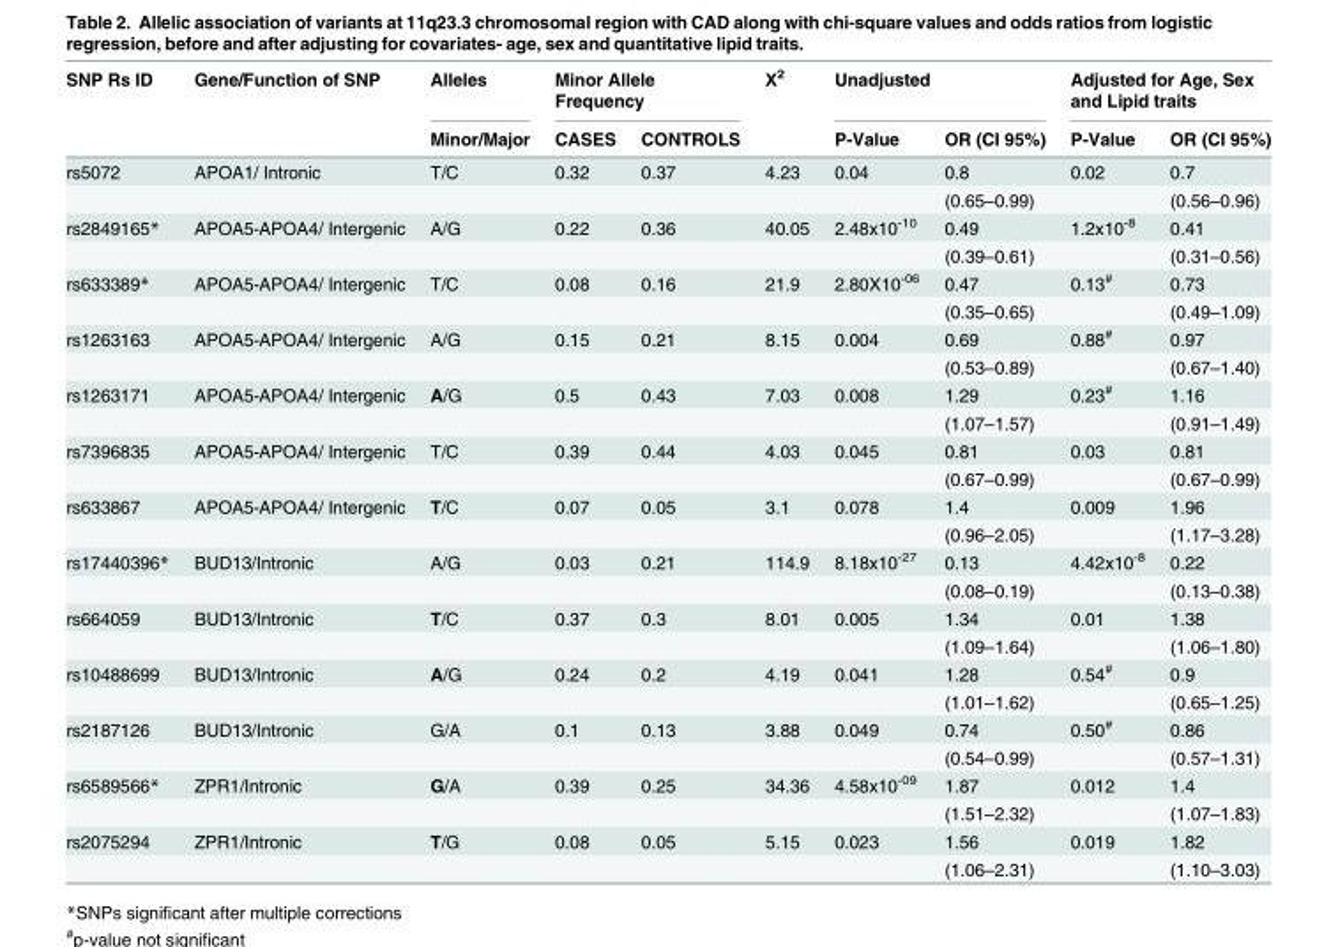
<table><thead><tr><td rowspan="2">SNP Rs ID</td><td rowspan="2">Gene/Function of SNP</td><td rowspan="2">Alleles Minor/Major</td><td colspan="2">Minor Allele Frequency</td><td rowspan="2">Χ<sup>2</sup></td><td colspan="2">Unadjusted</td><td colspan="2">Adjusted for Age, Sex and Lipid traits</td></tr><tr><td>CASES</td><td>CONTROLS</td><td>P-Value</td><td>OR (CI 95%)</td><td>P-Value</td><td>OR (CI 95%)</td></tr></thead><tbody><tr><td rowspan="2">rs5072</td><td>APOA1/ Intronic</td><td>T/C</td><td>0.32</td><td>0.37</td><td>4.23</td><td>0.04</td><td>0.8</td><td>0.02</td><td>0.7</td></tr><tr><td></td><td></td><td></td><td></td><td></td><td></td><td>(0.65–0.99)</td><td></td><td>(0.56–0.96)</td></tr><tr><td rowspan="2">rs2849165*</td><td>APOA5-APOA4/ Intergenic</td><td>A/G</td><td>0.22</td><td>0.36</td><td>40.05</td><td>2.48x10<sup>-10</sup></td><td>0.49</td><td>1.2x10<sup>-8</sup></td><td>0.41</td></tr><tr><td></td><td></td><td></td><td></td><td></td><td></td><td>(0.39–0.61)</td><td></td><td>(0.31–0.56)</td></tr><tr><td rowspan="2">rs633389*</td><td>APOA5-APOA4/ Intergenic</td><td>T/C</td><td>0.08</td><td>0.16</td><td>21.9</td><td>2.80X10<sup>-06</sup></td><td>0.47</td><td>0.13<sup>#</sup></td><td>0.73</td></tr><tr><td></td><td></td><td></td><td></td><td></td><td></td><td>(0.35–0.65)</td><td></td><td>(0.49–1.09)</td></tr><tr><td rowspan="2">rs1263163</td><td>APOA5-APOA4/ Intergenic</td><td>A/G</td><td>0.15</td><td>0.21</td><td>8.15</td><td>0.004</td><td>0.69</td><td>0.88<sup>#</sup></td><td>0.97</td></tr><tr><td></td><td></td><td></td><td></td><td></td><td></td><td>(0.53–0.89)</td><td></td><td>(0.67–1.40)</td></tr><tr><td rowspan="2">rs1263171</td><td>APOA5-APOA4/ Intergenic</td><td>A/G</td><td>0.5</td><td>0.43</td><td>7.03</td><td>0.008</td><td>1.29</td><td>0.23<sup>#</sup></td><td>1.16</td></tr><tr><td></td><td></td><td></td><td></td><td></td><td></td><td>(1.07–1.57)</td><td></td><td>(0.91–1.49)</td></tr><tr><td rowspan="2">rs7396835</td><td>APOA5-APOA4/ Intergenic</td><td>T/C</td><td>0.39</td><td>0.44</td><td>4.03</td><td>0.045</td><td>0.81</td><td>0.03</td><td>0.81</td></tr><tr><td></td><td></td><td></td><td></td><td></td><td></td><td>(0.67–0.99)</td><td></td><td>(0.67–0.99)</td></tr><tr><td rowspan="2">rs633867</td><td>APOA5-APOA4/ Intergenic</td><td>T/C</td><td>0.07</td><td>0.05</td><td>3.1</td><td>0.078</td><td>1.4</td><td>0.009</td><td>1.96</td></tr><tr><td></td><td></td><td></td><td></td><td></td><td></td><td>(0.96–2.05)</td><td></td><td>(1.17–3.28)</td></tr><tr><td rowspan="2">rs17440396*</td><td>BUD13/Intronic</td><td>A/G</td><td>0.03</td><td>0.21</td><td>114.9</td><td>8.18x10<sup>-27</sup></td><td>0.13</td><td>4.42x10<sup>-8</sup></td><td>0.22</td></tr><tr><td></td><td></td><td></td><td></td><td></td><td></td><td>(0.08–0.19)</td><td></td><td>(0.13–0.38)</td></tr><tr><td rowspan="2">rs664059</td><td>BUD13/Intronic</td><td>T/C</td><td>0.37</td><td>0.3</td><td>8.01</td><td>0.005</td><td>1.34</td><td>0.01</td><td>1.38</td></tr><tr><td></td><td></td><td></td><td></td><td></td><td></td><td>(1.09–1.64)</td><td></td><td>(1.06–1.80)</td></tr><tr><td rowspan="2">rs10488699</td><td>BUD13/Intronic</td><td>A/G</td><td>0.24</td><td>0.2</td><td>4.19</td><td>0.041</td><td>1.28</td><td>0.54<sup>#</sup></td><td>0.9</td></tr><tr><td></td><td></td><td></td><td></td><td></td><td></td><td>(1.01–1.62)</td><td></td><td>(0.65–1.25)</td></tr><tr><td rowspan="2">rs2187126</td><td>BUD13/Intronic</td><td>G/A</td><td>0.1</td><td>0.13</td><td>3.88</td><td>0.049</td><td>0.74</td><td>0.50<sup>#</sup></td><td>0.86</td></tr><tr><td></td><td></td><td></td><td></td><td></td><td></td><td>(0.54–0.99)</td><td></td><td>(0.57–1.31)</td></tr><tr><td rowspan="2">rs6589566*</td><td>ZPR1/Intronic</td><td>G/A</td><td>0.39</td><td>0.25</td><td>34.36</td><td>4.58x10<sup>-09</sup></td><td>1.87</td><td>0.012</td><td>1.4</td></tr><tr><td></td><td></td><td></td><td></td><td></td><td></td><td>(1.51–2.32)</td><td></td><td>(1.07–1.83)</td></tr><tr><td rowspan="2">rs2075294</td><td>ZPR1/Intronic</td><td>T/G</td><td>0.08</td><td>0.05</td><td>5.15</td><td>0.023</td><td>1.56</td><td>0.019</td><td>1.82</td></tr><tr><td></td><td></td><td></td><td></td><td></td><td></td><td>(1.06–2.31)</td><td></td><td>(1.10–3.03)</td></tr></tbody></table>